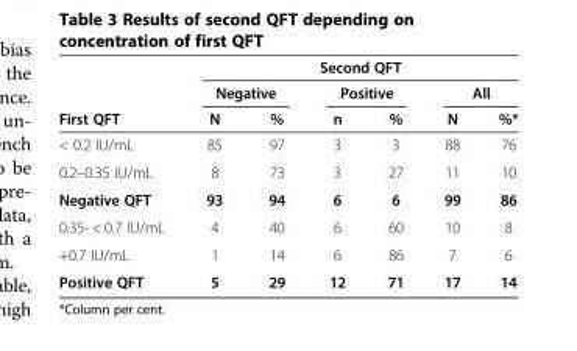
<table><thead><tr><td rowspan="3">First QFT</td><td colspan="6">Second QFT</td></tr><tr><td colspan="2">Negative</td><td colspan="2">Positive</td><td colspan="2">All</td></tr><tr><td>N</td><td>%</td><td>n</td><td>%</td><td>N</td><td>%*</td></tr></thead><tbody><tr><td>&lt; 0.2 IU/mL</td><td>85</td><td>97</td><td>3</td><td>3</td><td>88</td><td>76</td></tr><tr><td>0.2–0.35 IU/mL</td><td>8</td><td>73</td><td>3</td><td>27</td><td>11</td><td>10</td></tr><tr><td>Negative QFT</td><td>93</td><td>94</td><td>6</td><td>6</td><td>99</td><td>86</td></tr><tr><td>0.35- &lt; 0.7 IU/mL</td><td>4</td><td>40</td><td>6</td><td>60</td><td>10</td><td>8</td></tr><tr><td>+0.7 IU/mL</td><td>1</td><td>14</td><td>6</td><td>86</td><td>7</td><td>6</td></tr><tr><td>Positive QFT</td><td>5</td><td>29</td><td>12</td><td>71</td><td>17</td><td>14</td></tr></tbody></table>